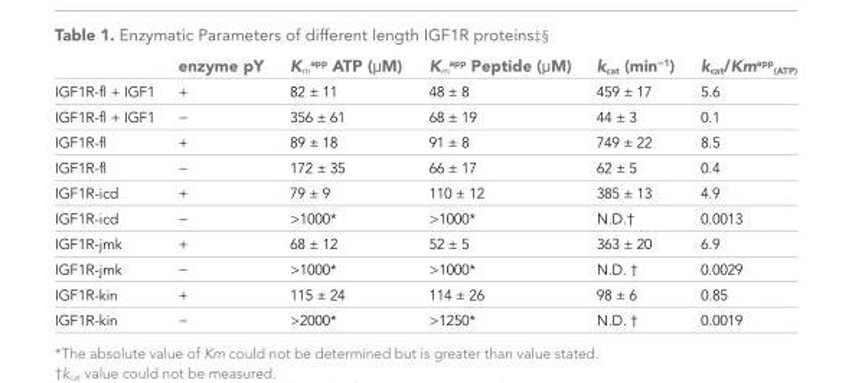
<table><thead><tr><td></td><td>enzyme pY</td><td>K<sub>m</sub> <sup>app</sup> ATP (μM)</td><td>K<sub>m</sub> <sup>app</sup> Peptide (μM)</td><td>k<sub>cat</sub> (min<sup>−1</sup>)</td><td>k<sub>cat</sub>/Km<sup>app</sup> <sub>(ATP)</sub></td></tr></thead><tbody><tr><td>IGF1R-fl + IGF1</td><td>+</td><td>82 ± 11</td><td>48 ± 8</td><td>459 ± 17</td><td>5.6</td></tr><tr><td>IGF1R-fl + IGF1</td><td>−</td><td>356 ± 61</td><td>68 ± 19</td><td>44 ± 3</td><td>0.1</td></tr><tr><td>IGF1R-fl</td><td>+</td><td>89 ± 18</td><td>91 ± 8</td><td>749 ± 22</td><td>8.5</td></tr><tr><td>IGF1R-fl</td><td>−</td><td>172 ± 35</td><td>66 ± 17</td><td>62 ± 5</td><td>0.4</td></tr><tr><td>IGF1R-icd</td><td>+</td><td>79 ± 9</td><td>110 ± 12</td><td>385 ± 13</td><td>4.9</td></tr><tr><td>IGF1R-icd</td><td>−</td><td>&gt;1000*</td><td>&gt;1000*</td><td>N.D.†</td><td>0.0013</td></tr><tr><td>IGF1R-jmk</td><td>+</td><td>68 ± 12</td><td>52 ± 5</td><td>363 ± 20</td><td>6.9</td></tr><tr><td>IGF1R-jmk</td><td>−</td><td>&gt;1000*</td><td>&gt;1000*</td><td>N.D. †</td><td>0.0029</td></tr><tr><td>IGF1R-kin</td><td>+</td><td>115 ± 24</td><td>114 ± 26</td><td>98 ± 6</td><td>0.85</td></tr><tr><td>IGF1R-kin</td><td>−</td><td>&gt;2000*</td><td>&gt;1250*</td><td>N.D. †</td><td>0.0019</td></tr></tbody></table>